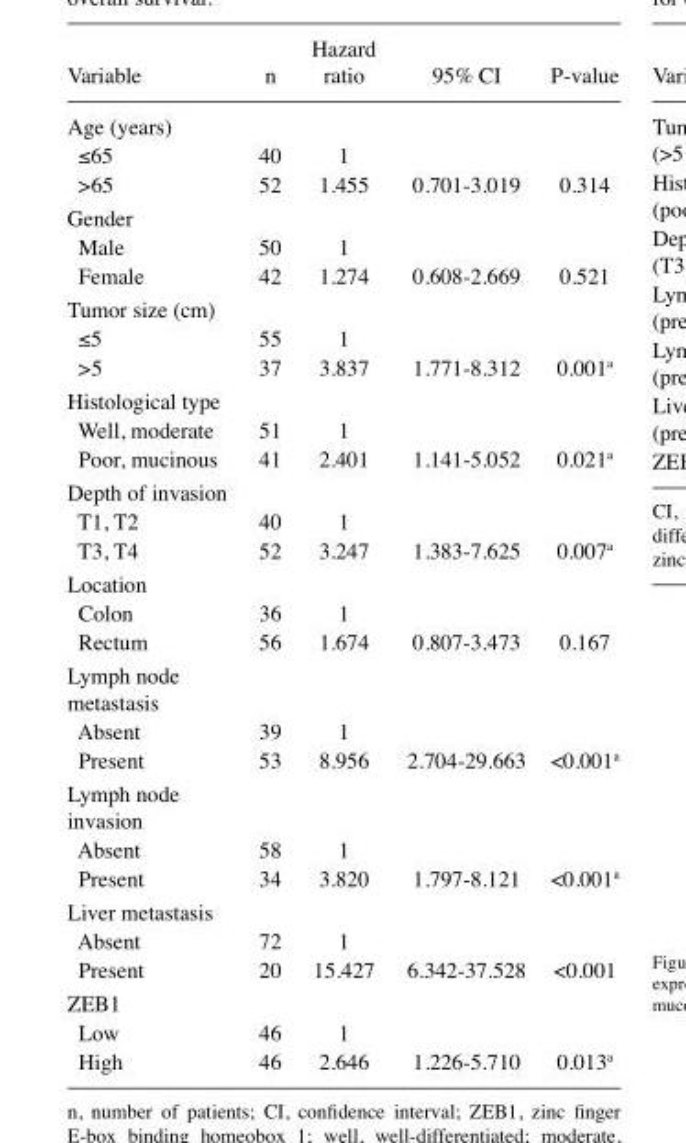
<table><thead><tr><td>Variable</td><td>n</td><td>ratio</td><td>95% CI</td><td>P-value</td></tr></thead><tbody><tr><td colspan="5">Age (years)</td></tr><tr><td>≤65</td><td>40</td><td>1</td><td></td><td></td></tr><tr><td>&gt;65</td><td>52</td><td>1.455</td><td>0.701-3.019</td><td>0.314</td></tr><tr><td colspan="5">Gender</td></tr><tr><td>Male</td><td>50</td><td>1</td><td></td><td></td></tr><tr><td>Female</td><td>42</td><td>1.274</td><td>0.608-2.669</td><td>0.521</td></tr><tr><td colspan="5">Tumor size (cm)</td></tr><tr><td>≤5</td><td>55</td><td>1</td><td></td><td></td></tr><tr><td>&gt;5</td><td>37</td><td>3.837</td><td>1.771-8.312</td><td>0.001<sup>a</sup></td></tr><tr><td colspan="5">Histological type</td></tr><tr><td>Well, moderate</td><td>51</td><td>1</td><td></td><td></td></tr><tr><td>Poor, mucinous</td><td>41</td><td>2.401</td><td>1.141-5.052</td><td>0.021<sup>a</sup></td></tr><tr><td colspan="5">Depth of invasion</td></tr><tr><td>T1, T2</td><td>40</td><td>1</td><td></td><td></td></tr><tr><td>T3, T4</td><td>52</td><td>3.247</td><td>1.383-7.625</td><td>0.007<sup>a</sup></td></tr><tr><td colspan="5">Location</td></tr><tr><td>Colon</td><td>36</td><td>1</td><td></td><td></td></tr><tr><td>Rectum</td><td>56</td><td>1.674</td><td>0.807-3.473</td><td>0.167</td></tr><tr><td colspan="5">Lymph node metastasis</td></tr><tr><td>Absent</td><td>39</td><td>1</td><td></td><td></td></tr><tr><td>Present</td><td>53</td><td>8.956</td><td>2.704-29.663</td><td>&lt;0.001<sup>a</sup></td></tr><tr><td colspan="5">Lymph node invasion</td></tr><tr><td>Absent</td><td>58</td><td>1</td><td></td><td></td></tr><tr><td>Present</td><td>34</td><td>3.820</td><td>1.797-8.121</td><td>&lt;0.001<sup>a</sup></td></tr><tr><td colspan="5">Liver metastasis</td></tr><tr><td>Absent</td><td>72</td><td>1</td><td></td><td></td></tr><tr><td>Present</td><td>20</td><td>15.427</td><td>6.342-37.528</td><td>&lt;0.001</td></tr><tr><td colspan="5">ZEB1</td></tr><tr><td>Low</td><td>46</td><td>1</td><td></td><td></td></tr><tr><td>High</td><td>46</td><td>2.646</td><td>1.226-5.710</td><td>0.013<sup>a</sup></td></tr></tbody></table>